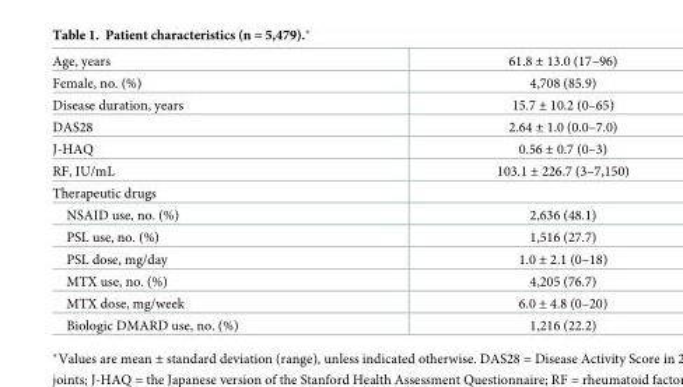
<table><tbody><tr><td>Age, years</td><td>61.8 ± 13.0 (17–96)</td></tr><tr><td>Female, no. (%)</td><td>4,708 (85.9)</td></tr><tr><td>Disease duration, years</td><td>15.7 ± 10.2 (0–65)</td></tr><tr><td>DAS28</td><td>2.64 ± 1.0 (0.0–7.0)</td></tr><tr><td>J-HAQ</td><td>0.56 ± 0.7 (0–3)</td></tr><tr><td>RF, IU/mL</td><td>103.1 ± 226.7 (3–7,150)</td></tr><tr><td colspan="2">Therapeutic drugs</td></tr><tr><td>NSAID use, no. (%)</td><td>2,636 (48.1)</td></tr><tr><td>PSL use, no. (%)</td><td>1,516 (27.7)</td></tr><tr><td>PSL dose, mg/day</td><td>1.0 ± 2.1 (0–18)</td></tr><tr><td>MTX use, no. (%)</td><td>4,205 (76.7)</td></tr><tr><td>MTX dose, mg/week</td><td>6.0 ± 4.8 (0–20)</td></tr><tr><td>Biologic DMARD use, no. (%)</td><td>1,216 (22.2)</td></tr></tbody></table>